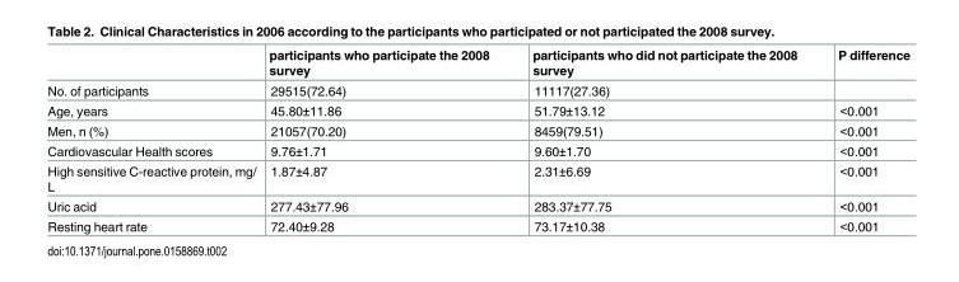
<table><thead><tr><td></td><td>participants who participate the 2008 survey</td><td>participants who did not participate the 2008 survey</td><td>P difference</td></tr></thead><tbody><tr><td>No. of participants</td><td>29515(72.64)</td><td>11117(27.36)</td><td></td></tr><tr><td>Age, years</td><td>45.80±11.86</td><td>51.79±13.12</td><td>&lt;0.001</td></tr><tr><td>Men, n (%)</td><td>21057(70.20)</td><td>8459(79.51)</td><td>&lt;0.001</td></tr><tr><td>Cardiovascular Health scores</td><td>9.76±1.71</td><td>9.60±1.70</td><td>&lt;0.001</td></tr><tr><td>High sensitive C-reactive protein, mg/ L</td><td>1.87±4.87</td><td>2.31±6.69</td><td>&lt;0.001</td></tr><tr><td>Uric acid</td><td>277.43±77.96</td><td>283.37±77.75</td><td>&lt;0.001</td></tr><tr><td>Resting heart rate</td><td>72.40±9.28</td><td>73.17±10.38</td><td>&lt;0.001</td></tr></tbody></table>